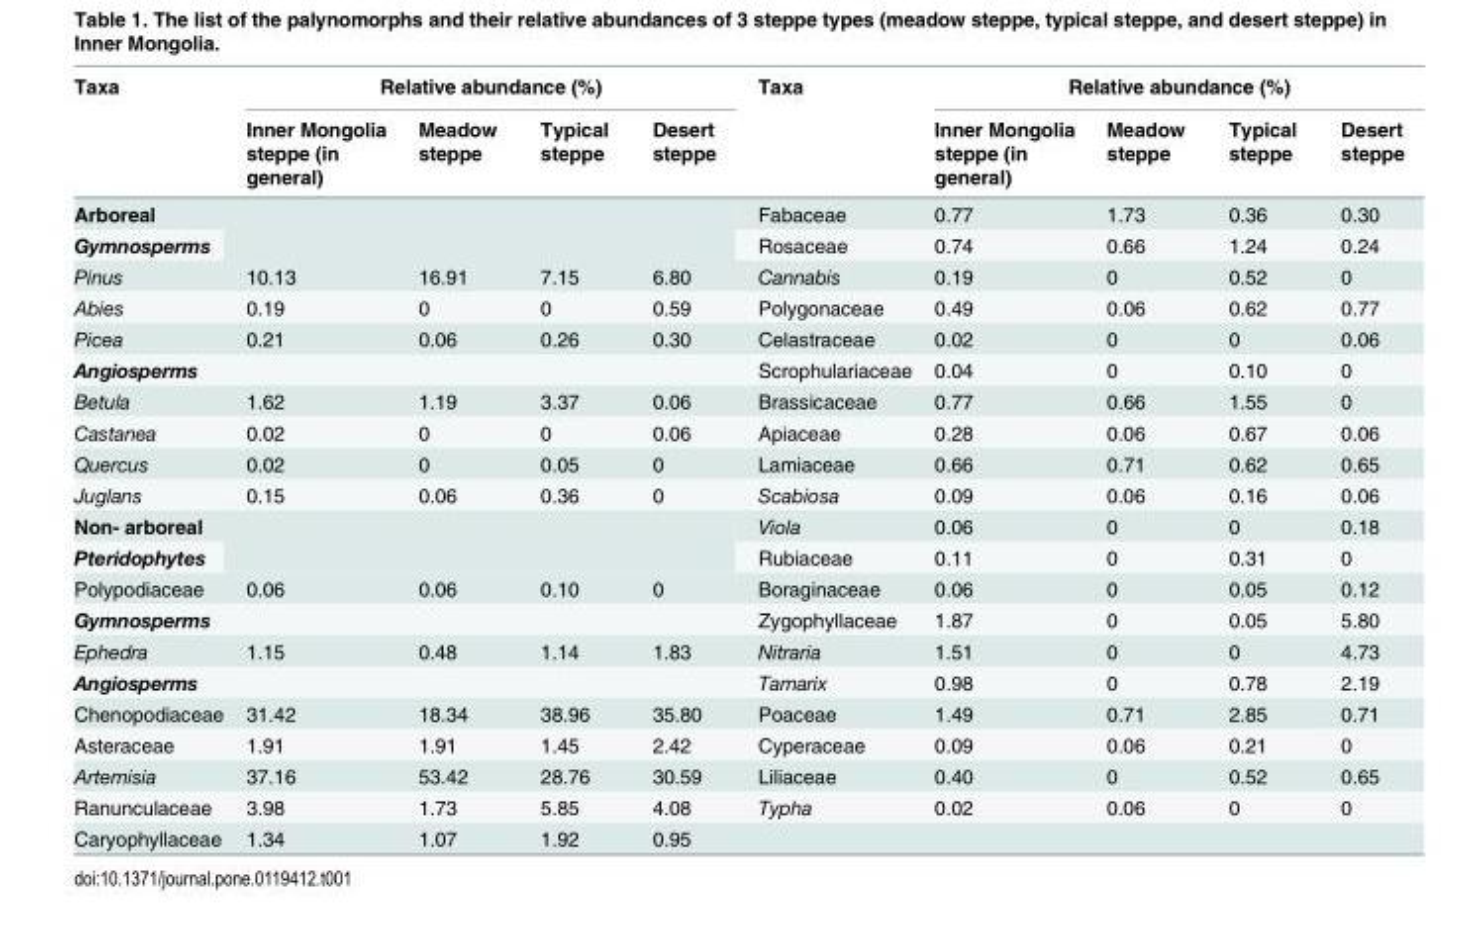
<table><thead><tr><td rowspan="2">Taxa</td><td colspan="4">Relative abundance (%)</td><td rowspan="2">Taxa</td><td colspan="4">Relative abundance (%)</td></tr><tr><td>Inner Mongolia steppe (in general)</td><td>Meadow steppe</td><td>Typical steppe</td><td>Desert steppe</td><td>Inner Mongolia steppe (in general)</td><td>Meadow steppe</td><td>Typical steppe</td><td>Desert steppe</td></tr></thead><tbody><tr><td>Arboreal</td><td rowspan="2" colspan="4"></td><td>Fabaceae</td><td>0.77</td><td>1.73</td><td>0.36</td><td>0.30</td></tr><tr><td>Gymnosperms</td><td>Rosaceae</td><td>0.74</td><td>0.66</td><td>1.24</td><td>0.24</td></tr><tr><td>Pinus</td><td>10.13</td><td>16.91</td><td>7.15</td><td>6.80</td><td>Cannabis</td><td>0.19</td><td>0</td><td>0.52</td><td>0</td></tr><tr><td>Abies</td><td>0.19</td><td>0</td><td>0</td><td>0.59</td><td>Polygonaceae</td><td>0.49</td><td>0.06</td><td>0.62</td><td>0.77</td></tr><tr><td>Picea</td><td>0.21</td><td>0.06</td><td>0.26</td><td>0.30</td><td>Celastraceae</td><td>0.02</td><td>0</td><td>0</td><td>0.06</td></tr><tr><td colspan="5">Angiosperms</td><td>Scrophulariaceae</td><td>0.04</td><td>0</td><td>0.10</td><td>0</td></tr><tr><td>Betula</td><td>1.62</td><td>1.19</td><td>3.37</td><td>0.06</td><td>Brassicaceae</td><td>0.77</td><td>0.66</td><td>1.55</td><td>0</td></tr><tr><td>Castanea</td><td>0.02</td><td>0</td><td>0</td><td>0.06</td><td>Apiaceae</td><td>0.28</td><td>0.06</td><td>0.67</td><td>0.06</td></tr><tr><td>Quercus</td><td>0.02</td><td>0</td><td>0.05</td><td>0</td><td>Lamiaceae</td><td>0.66</td><td>0.71</td><td>0.62</td><td>0.65</td></tr><tr><td>Juglans</td><td>0.15</td><td>0.06</td><td>0.36</td><td>0</td><td>Scabiosa</td><td>0.09</td><td>0.06</td><td>0.16</td><td>0.06</td></tr><tr><td>Non- arboreal</td><td rowspan="2" colspan="4"></td><td>Viola</td><td>0.06</td><td>0</td><td>0</td><td>0.18</td></tr><tr><td>Pteridophytes</td><td>Rubiaceae</td><td>0.11</td><td>0</td><td>0.31</td><td>0</td></tr><tr><td>Polypodiaceae</td><td>0.06</td><td>0.06</td><td>0.10</td><td>0</td><td>Boraginaceae</td><td>0.06</td><td>0</td><td>0.05</td><td>0.12</td></tr><tr><td colspan="5">Gymnosperms</td><td>Zygophyllaceae</td><td>1.87</td><td>0</td><td>0.05</td><td>5.80</td></tr><tr><td>Ephedra</td><td>1.15</td><td>0.48</td><td>1.14</td><td>1.83</td><td>Nitraria</td><td>1.51</td><td>0</td><td>0</td><td>4.73</td></tr><tr><td colspan="5">Angiosperms</td><td>Tamarix</td><td>0.98</td><td>0</td><td>0.78</td><td>2.19</td></tr><tr><td>Chenopodiaceae</td><td>31.42</td><td>18.34</td><td>38.96</td><td>35.80</td><td>Poaceae</td><td>1.49</td><td>0.71</td><td>2.85</td><td>0.71</td></tr><tr><td>Asteraceae</td><td>1.91</td><td>1.91</td><td>1.45</td><td>2.42</td><td>Cyperaceae</td><td>0.09</td><td>0.06</td><td>0.21</td><td>0</td></tr><tr><td>Artemisia</td><td>37.16</td><td>53.42</td><td>28.76</td><td>30.59</td><td>Liliaceae</td><td>0.40</td><td>0</td><td>0.52</td><td>0.65</td></tr><tr><td>Ranunculaceae</td><td>3.98</td><td>1.73</td><td>5.85</td><td>4.08</td><td>Typha</td><td>0.02</td><td>0.06</td><td>0</td><td>0</td></tr><tr><td>Caryophyllaceae</td><td>1.34</td><td>1.07</td><td>1.92</td><td>0.95</td><td></td><td></td><td></td><td></td><td></td></tr></tbody></table>